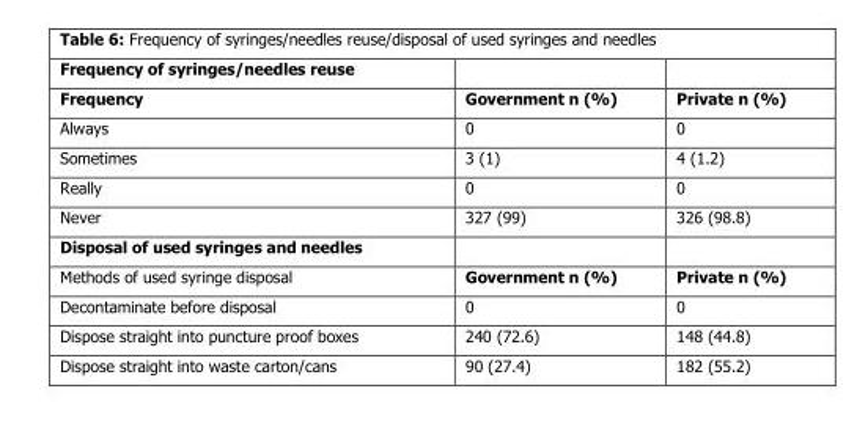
<table><thead><tr><td rowspan="2">Frequency of syringes/needles reuse Frequency</td><td rowspan="2">Government n (%)</td><td rowspan="2">Private n (%)</td></tr><tr></tr></thead><tbody><tr><td>Always</td><td>0</td><td>0</td></tr><tr><td>Sometimes</td><td>3 (1)</td><td>4 (1.2)</td></tr><tr><td>Really</td><td>0</td><td>0</td></tr><tr><td>Never</td><td>327 (99)</td><td>326 (98.8)</td></tr><tr><td colspan="3">Disposal of used syringes and needles</td></tr><tr><td>Methods of used syringe disposal</td><td>Government n (%)</td><td>Private n (%)</td></tr><tr><td>Decontaminate before disposal</td><td>0</td><td>0</td></tr><tr><td>Dispose straight into puncture proof boxes</td><td>240 (72.6)</td><td>148 (44.8)</td></tr><tr><td>Dispose straight into waste carton/cans</td><td>90 (27.4)</td><td>182 (55.2)</td></tr></tbody></table>